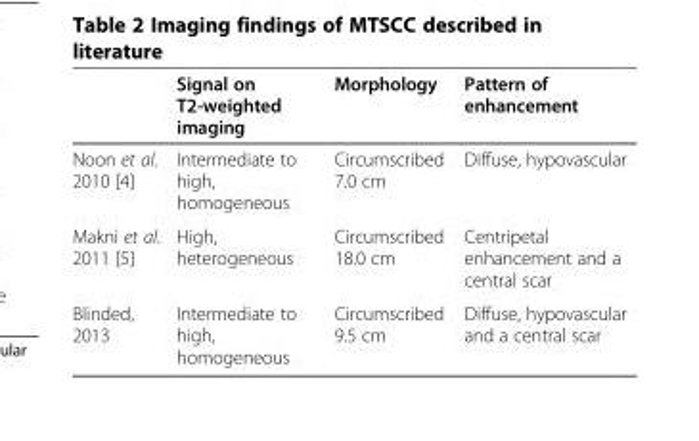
<table><thead><tr><td></td><td>Signal on T2-weighted imaging</td><td>Morphology</td><td>Pattern of enhancement</td></tr></thead><tbody><tr><td>Noon et al. 2010 [4]</td><td>Intermediate to high, homogeneous</td><td>Circumscribed 7.0 cm</td><td>Diffuse, hypovascular</td></tr><tr><td>Makni et al. 2011 [5]</td><td>High, heterogeneous</td><td>Circumscribed 18.0 cm</td><td>Centripetal enhancement and a central scar</td></tr><tr><td>Blinded, 2013</td><td>Intermediate to high, homogeneous</td><td>Circumscribed 9.5 cm</td><td>Diffuse, hypovascular and a central scar</td></tr></tbody></table>